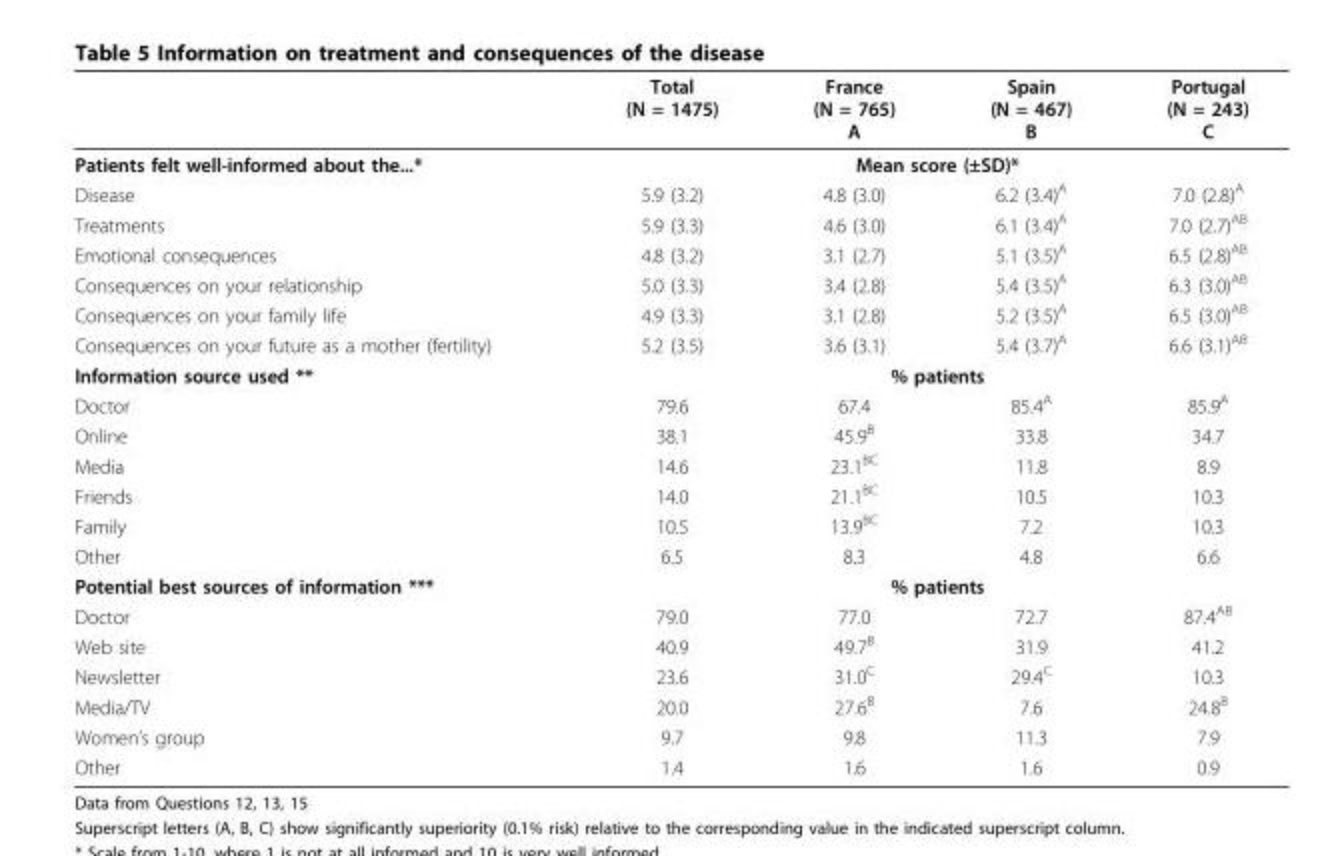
<table><thead><tr><td></td><td>Total (N = 1475)</td><td>France (N = 765) A</td><td>Spain (N = 467) B</td><td>Portugal (N = 243) C</td></tr></thead><tbody><tr><td>Patients felt well-informed about the...*</td><td colspan="4">Mean score (±SD)*</td></tr><tr><td>Disease</td><td>5.9 (3.2)</td><td>4.8 (3.0)</td><td>6.2 (3.4)<sup>A</sup></td><td>7.0 (2.8)<sup>A</sup></td></tr><tr><td>Treatments</td><td>5.9 (3.3)</td><td>4.6 (3.0)</td><td>6.1 (3.4)<sup>A</sup></td><td>7.0 (2.7)<sup>AB</sup></td></tr><tr><td>Emotional consequences</td><td>4.8 (3.2)</td><td>3.1 (2.7)</td><td>5.1 (3.5)<sup>A</sup></td><td>6.5 (2.8)<sup>AB</sup></td></tr><tr><td>Consequences on your relationship</td><td>5.0 (3.3)</td><td>3.4 (2.8)</td><td>5.4 (3.5)<sup>A</sup></td><td>6.3 (3.0)<sup>AB</sup></td></tr><tr><td>Consequences on your family life</td><td>4.9 (3.3)</td><td>3.1 (2.8)</td><td>5.2 (3.5)<sup>A</sup></td><td>6.5 (3.0)<sup>AB</sup></td></tr><tr><td>Consequences on your future as a mother (fertility)</td><td>5.2 (3.5)</td><td>3.6 (3.1)</td><td>5.4 (3.7)<sup>A</sup></td><td>6.6 (3.1)<sup>AB</sup></td></tr><tr><td>Information source used **</td><td colspan="4">% patients</td></tr><tr><td>Doctor</td><td>79.6</td><td>67.4</td><td>85.4<sup>A</sup></td><td>85.9<sup>A</sup></td></tr><tr><td>Online</td><td>38.1</td><td>45.9<sup>B</sup></td><td>33.8</td><td>34.7</td></tr><tr><td>Media</td><td>14.6</td><td>23.1<sup>BC</sup></td><td>11.8</td><td>8.9</td></tr><tr><td>Friends</td><td>14.0</td><td>21.1<sup>BC</sup></td><td>10.5</td><td>10.3</td></tr><tr><td>Family</td><td>10.5</td><td>13.9<sup>BC</sup></td><td>7.2</td><td>10.3</td></tr><tr><td>Other</td><td>6.5</td><td>8.3</td><td>4.8</td><td>6.6</td></tr><tr><td>Potential best sources of information ***</td><td colspan="4">% patients</td></tr><tr><td>Doctor</td><td>79.0</td><td>77.0</td><td>72.7</td><td>87.4<sup>AB</sup></td></tr><tr><td>Web site</td><td>40.9</td><td>49.7<sup>B</sup></td><td>31.9</td><td>41.2</td></tr><tr><td>Newsletter</td><td>23.6</td><td>31.0<sup>C</sup></td><td>29.4<sup>C</sup></td><td>10.3</td></tr><tr><td>Media/TV</td><td>20.0</td><td>27.6<sup>B</sup></td><td>7.6</td><td>24.8<sup>B</sup></td></tr><tr><td>Women’s group</td><td>9.7</td><td>9.8</td><td>11.3</td><td>7.9</td></tr><tr><td>Other</td><td>1.4</td><td>1.6</td><td>1.6</td><td>0.9</td></tr></tbody></table>